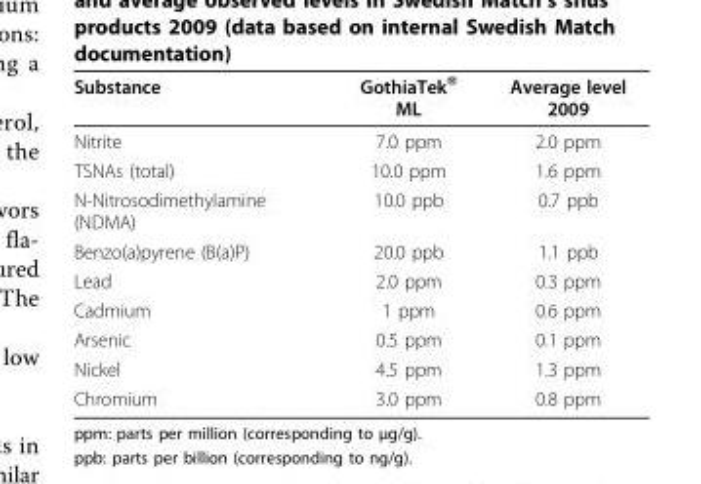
<table><thead><tr><td>Substance</td><td>GothiaTek<sup>®</sup> ML</td><td>Average level 2009</td></tr></thead><tbody><tr><td>Nitrite</td><td>7.0 ppm</td><td>2.0 ppm</td></tr><tr><td>TSNAs (total)</td><td>10.0 ppm</td><td>1.6 ppm</td></tr><tr><td>N-Nitrosodimethylamine (NDMA)</td><td>10.0 ppb</td><td>0.7 ppb</td></tr><tr><td>Benzo(a)pyrene (B(a)P)</td><td>20.0 ppb</td><td>1.1 ppb</td></tr><tr><td>Lead</td><td>2.0 ppm</td><td>0.3 ppm</td></tr><tr><td>Cadmium</td><td>1 ppm</td><td>0.6 ppm</td></tr><tr><td>Arsenic</td><td>0.5 ppm</td><td>0.1 ppm</td></tr><tr><td>Nickel</td><td>4.5 ppm</td><td>1.3 ppm</td></tr><tr><td>Chromium</td><td>3.0 ppm</td><td>0.8 ppm</td></tr></tbody></table>